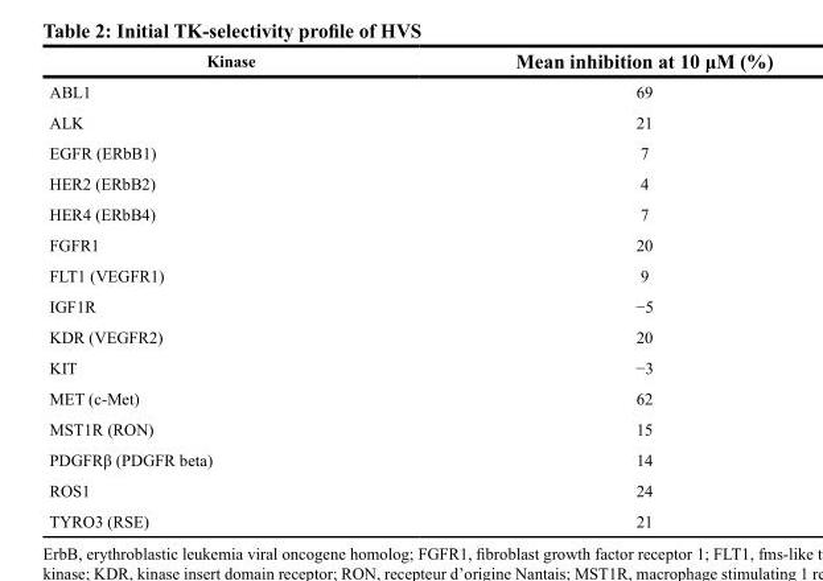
<table><thead><tr><td>Kinase</td><td>Mean inhibition at 10 μM (%)</td></tr></thead><tbody><tr><td>ABL1</td><td>69</td></tr><tr><td>ALK</td><td>21</td></tr><tr><td>EGFR (ERbB1)</td><td>7</td></tr><tr><td>HER2 (ERbB2)</td><td>4</td></tr><tr><td>HER4 (ERbB4)</td><td>7</td></tr><tr><td>FGFR1</td><td>20</td></tr><tr><td>FLT1 (VEGFR1)</td><td>9</td></tr><tr><td>IGF1R</td><td>−5</td></tr><tr><td>KDR (VEGFR2)</td><td>20</td></tr><tr><td>KIT</td><td>−3</td></tr><tr><td>MET (c-Met)</td><td>62</td></tr><tr><td>MST1R (RON)</td><td>15</td></tr><tr><td>PDGFRβ (PDGFR beta)</td><td>14</td></tr><tr><td>ROS1</td><td>24</td></tr><tr><td>TYRO3 (RSE)</td><td>21</td></tr></tbody></table>